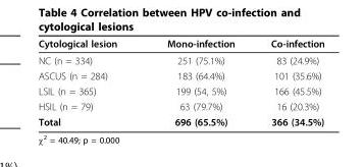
<table><thead><tr><td>Cytological lesion</td><td>Mono-infection</td><td>Co-infection</td></tr></thead><tbody><tr><td>NC (n = 334)</td><td>251 (75.1%)</td><td>83 (24.9%)</td></tr><tr><td>ASCUS (n = 284)</td><td>183 (64.4%)</td><td>101 (35.6%)</td></tr><tr><td>LSIL (n = 365)</td><td>199 (54, 5%)</td><td>166 (45.5%)</td></tr><tr><td>HSIL (n = 79)</td><td>63 (79.7%)</td><td>16 (20.3%)</td></tr><tr><td>Total</td><td>696 (65.5%)</td><td>366 (34.5%)</td></tr></tbody></table>